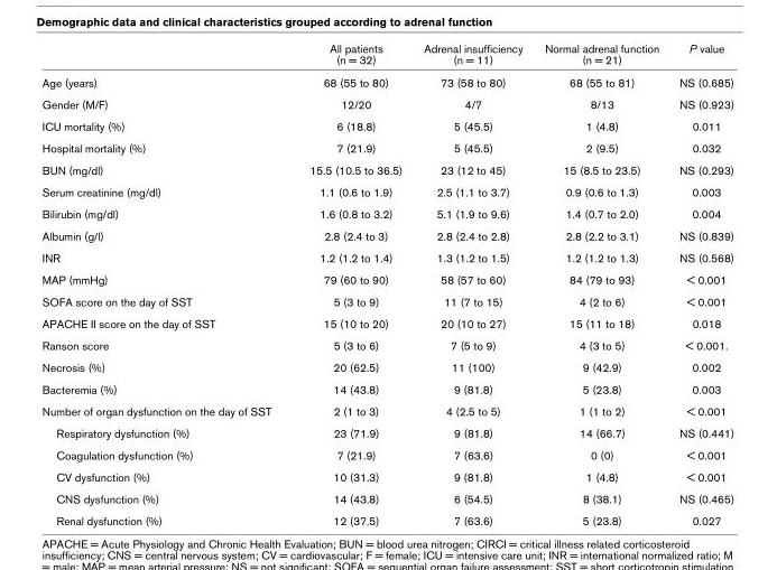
<table><thead><tr><td></td><td>All patients (n = 32)</td><td>Adrenal insufficiency (n = 11)</td><td>Normal adrenal function (n = 21)</td><td>P value</td></tr></thead><tbody><tr><td>Age (years)</td><td>68 (55 to 80)</td><td>73 (58 to 80)</td><td>68 (55 to 81)</td><td>NS (0.685)</td></tr><tr><td>Gender (M/F)</td><td>12/20</td><td>4/7</td><td>8/13</td><td>NS (0.923)</td></tr><tr><td>ICU mortality (%)</td><td>6 (18.8)</td><td>5 (45.5)</td><td>1 (4.8)</td><td>0.011</td></tr><tr><td>Hospital mortality (%)</td><td>7 (21.9)</td><td>5 (45.5)</td><td>2 (9.5)</td><td>0.032</td></tr><tr><td>BUN (mg/dl)</td><td>15.5 (10.5 to 36.5)</td><td>23 (12 to 45)</td><td>15 (8.5 to 23.5)</td><td>NS (0.293)</td></tr><tr><td>Serum creatinine (mg/dl)</td><td>1.1 (0.6 to 1.9)</td><td>2.5 (1.1 to 3.7)</td><td>0.9 (0.6 to 1.3)</td><td>0.003</td></tr><tr><td>Bilirubin (mg/dl)</td><td>1.6 (0.8 to 3.2)</td><td>5.1 (1.9 to 9.6)</td><td>1.4 (0.7 to 2.0)</td><td>0.004</td></tr><tr><td>Albumin (g/l)</td><td>2.8 (2.4 to 3)</td><td>2.8 (2.4 to 2.8)</td><td>2.8 (2.2 to 3.1)</td><td>NS (0.839)</td></tr><tr><td>INR</td><td>1.2 (1.2 to 1.4)</td><td>1.3 (1.2 to 1.5)</td><td>1.2 (1.2 to 1.3)</td><td>NS (0.568)</td></tr><tr><td>MAP (mmHg)</td><td>79 (60 to 90)</td><td>58 (57 to 60)</td><td>84 (79 to 93)</td><td>&lt; 0.001</td></tr><tr><td>SOFA score on the day of SST</td><td>5 (3 to 9)</td><td>11 (7 to 15)</td><td>4 (2 to 6)</td><td>&lt; 0.001</td></tr><tr><td>APACHE II score on the day of SST</td><td>15 (10 to 20)</td><td>20 (10 to 27)</td><td>15 (11 to 18)</td><td>0.018</td></tr><tr><td>Ranson score</td><td>5 (3 to 6)</td><td>7 (5 to 9)</td><td>4 (3 to 5)</td><td>&lt; 0.001.</td></tr><tr><td>Necrosis (%)</td><td>20 (62.5)</td><td>11 (100)</td><td>9 (42.9)</td><td>0.002</td></tr><tr><td>Bacteremia (%)</td><td>14 (43.8)</td><td>9 (81.8)</td><td>5 (23.8)</td><td>0.003</td></tr><tr><td>Number of organ dysfunction on the day of SST</td><td>2 (1 to 3)</td><td>4 (2.5 to 5)</td><td>1 (1 to 2)</td><td>&lt; 0.001</td></tr><tr><td>Respiratory dysfunction (%)</td><td>23 (71.9)</td><td>9 (81.8)</td><td>14 (66.7)</td><td>NS (0.441)</td></tr><tr><td>Coagulation dysfunction (%)</td><td>7 (21.9)</td><td>7 (63.6)</td><td>0 (0)</td><td>&lt; 0.001</td></tr><tr><td>CV dysfunction (%)</td><td>10 (31.3)</td><td>9 (81.8)</td><td>1 (4.8)</td><td>&lt; 0.001</td></tr><tr><td>CNS dysfunction (%)</td><td>14 (43.8)</td><td>6 (54.5)</td><td>8 (38.1)</td><td>NS (0.465)</td></tr><tr><td>Renal dysfunction (%)</td><td>12 (37.5)</td><td>7 (63.6)</td><td>5 (23.8)</td><td>0.027</td></tr></tbody></table>